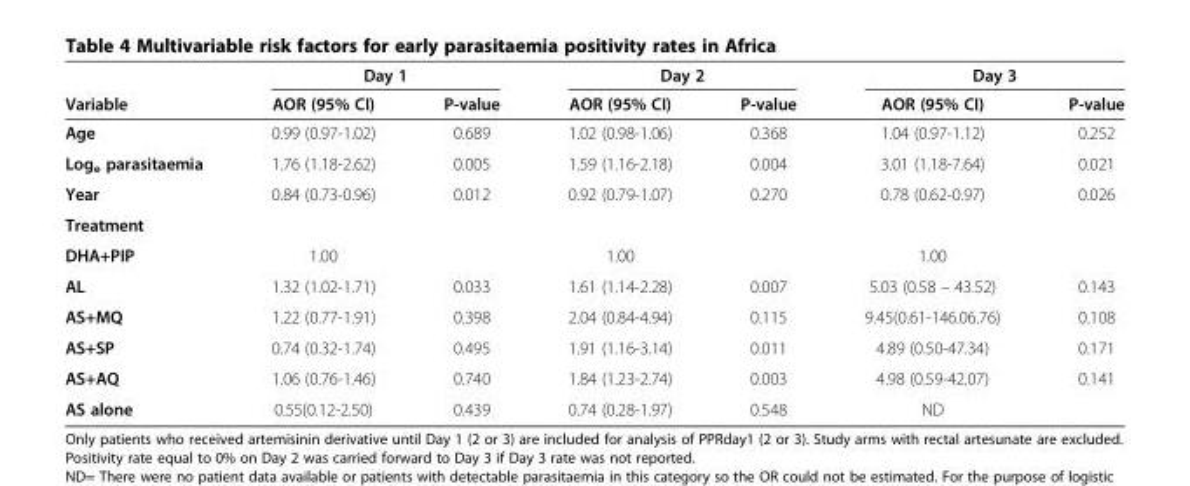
<table><thead><tr><td rowspan="2">Variable</td><td colspan="2">Day 1</td><td colspan="2">Day 2</td><td colspan="2">Day 3</td></tr><tr><td>AOR (95% CI)</td><td>P-value</td><td>AOR (95% CI)</td><td>P-value</td><td>AOR (95% CI)</td><td>P-value</td></tr></thead><tbody><tr><td>Age</td><td>0.99 (0.97-1.02)</td><td>0.689</td><td>1.02 (0.98-1.06)</td><td>0.368</td><td>1.04 (0.97-1.12)</td><td>0.252</td></tr><tr><td>Log<sub>e</sub> parasitaemia</td><td>1.76 (1.18-2.62)</td><td>0.005</td><td>1.59 (1.16-2.18)</td><td>0.004</td><td>3.01 (1.18-7.64)</td><td>0.021</td></tr><tr><td>Year</td><td>0.84 (0.73-0.96)</td><td>0.012</td><td>0.92 (0.79-1.07)</td><td>0.270</td><td>0.78 (0.62-0.97)</td><td>0.026</td></tr><tr><td colspan="7">Treatment</td></tr><tr><td>DHA+PIP</td><td>1.00</td><td></td><td>1.00</td><td></td><td>1.00</td><td></td></tr><tr><td>AL</td><td>1.32 (1.02-1.71)</td><td>0.033</td><td>1.61 (1.14-2.28)</td><td>0.007</td><td>5.03 (0.58 – 43.52)</td><td>0.143</td></tr><tr><td>AS+MQ</td><td>1.22 (0.77-1.91)</td><td>0.398</td><td>2.04 (0.84-4.94)</td><td>0.115</td><td>9.45(0.61-146.06.76)</td><td>0.108</td></tr><tr><td>AS+SP</td><td>0.74 (0.32-1.74)</td><td>0.495</td><td>1.91 (1.16-3.14)</td><td>0.011</td><td>4.89 (0.50-47.34)</td><td>0.171</td></tr><tr><td>AS+AQ</td><td>1.06 (0.76-1.46)</td><td>0.740</td><td>1.84 (1.23-2.74)</td><td>0.003</td><td>4.98 (0.59-42.07)</td><td>0.141</td></tr><tr><td>AS alone</td><td>0.55(0.12-2.50)</td><td>0.439</td><td>0.74 (0.28-1.97)</td><td>0.548</td><td>ND</td><td></td></tr></tbody></table>